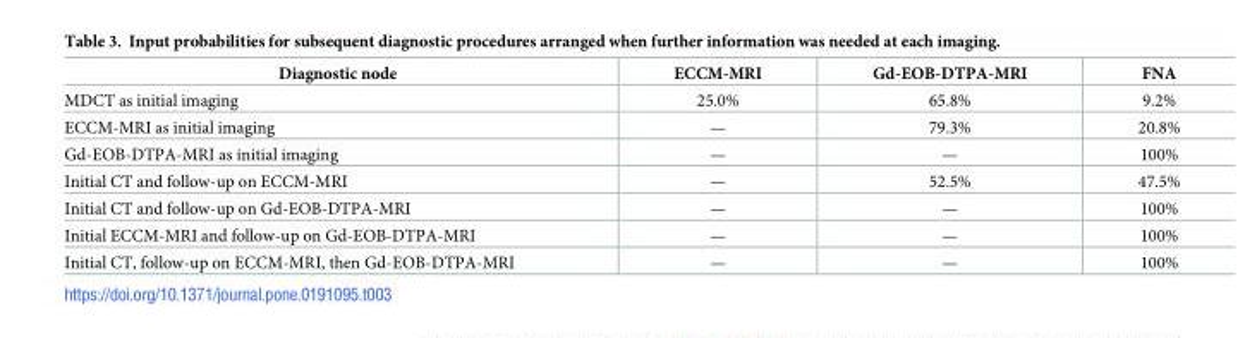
<table><thead><tr><td>Diagnostic node</td><td>ECCM-MRI</td><td>Gd-EOB-DTPA-MRI</td><td>FNA</td></tr></thead><tbody><tr><td>MDCT as initial imaging</td><td>25.0%</td><td>65.8%</td><td>9.2%</td></tr><tr><td>ECCM-MRI as initial imaging</td><td>—</td><td>79.3%</td><td>20.8%</td></tr><tr><td>Gd-EOB-DTPA-MRI as initial imaging</td><td>—</td><td>—</td><td>100%</td></tr><tr><td>Initial CT and follow-up on ECCM-MRI</td><td>—</td><td>52.5%</td><td>47.5%</td></tr><tr><td>Initial CT and follow-up on Gd-EOB-DTPA-MRI</td><td>—</td><td>—</td><td>100%</td></tr><tr><td>Initial ECCM-MRI and follow-up on Gd-EOB-DTPA-MRI</td><td>—</td><td>—</td><td>100%</td></tr><tr><td>Initial CT, follow-up on ECCM-MRI, then Gd-EOB-DTPA-MRI</td><td>—</td><td>—</td><td>100%</td></tr></tbody></table>